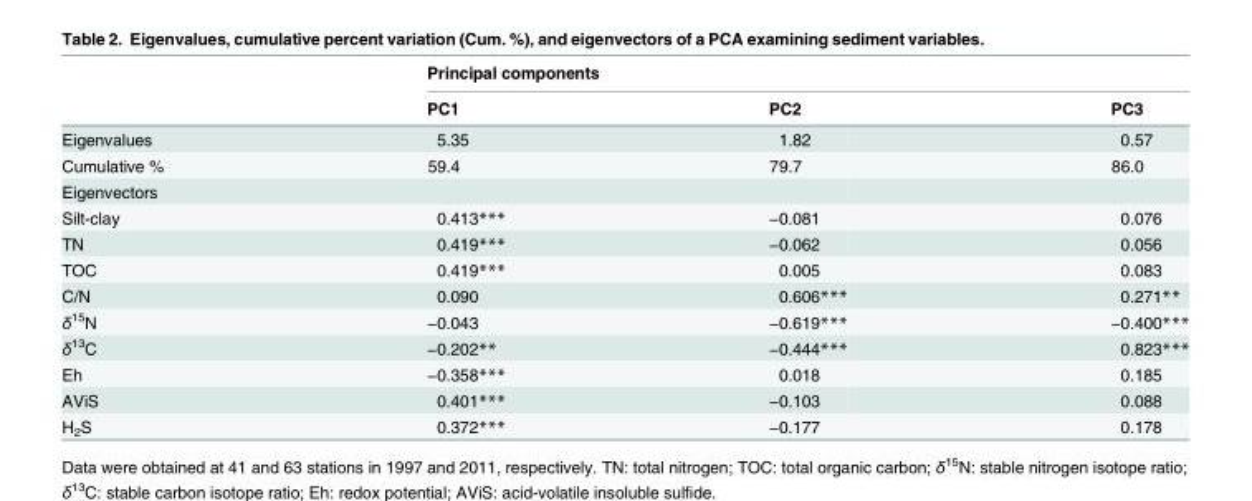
<table><thead><tr><td rowspan="2"></td><td colspan="3">Principal components</td></tr><tr><td>PC1</td><td>PC2</td><td>PC3</td></tr></thead><tbody><tr><td>Eigenvalues</td><td>5.35</td><td>1.82</td><td>0.57</td></tr><tr><td>Cumulative %</td><td>59.4</td><td>79.7</td><td>86.0</td></tr><tr><td colspan="4">Eigenvectors</td></tr><tr><td>Silt-clay</td><td>0.413***</td><td>−0.081</td><td>0.076</td></tr><tr><td>TN</td><td>0.419***</td><td>−0.062</td><td>0.056</td></tr><tr><td>TOC</td><td>0.419***</td><td>0.005</td><td>0.083</td></tr><tr><td>C/N</td><td>0.090</td><td>0.606***</td><td>0.271**</td></tr><tr><td>δ<sup>15</sup>N</td><td>−0.043</td><td>−0.619***</td><td>−0.400***</td></tr><tr><td>δ<sup>13</sup>C</td><td>−0.202**</td><td>−0.444***</td><td>0.823***</td></tr><tr><td>Eh</td><td>−0.358***</td><td>0.018</td><td>0.185</td></tr><tr><td>AViS</td><td>0.401***</td><td>−0.103</td><td>0.088</td></tr><tr><td>H<sub>2</sub>S</td><td>0.372***</td><td>−0.177</td><td>0.178</td></tr></tbody></table>